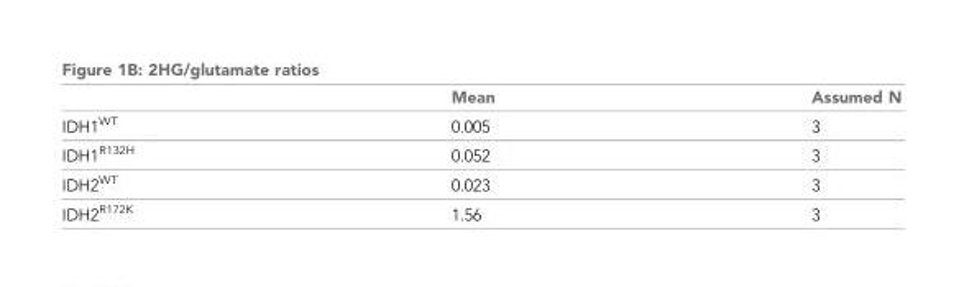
<table><thead><tr><td colspan="3">Figure 1B: 2HG/glutamate ratios</td></tr><tr><td></td><td>Mean</td><td>Assumed N</td></tr></thead><tbody><tr><td>IDH1<sup>WT</sup></td><td>0.005</td><td>3</td></tr><tr><td>IDH1<sup>R132H</sup></td><td>0.052</td><td>3</td></tr><tr><td>IDH2<sup>WT</sup></td><td>0.023</td><td>3</td></tr><tr><td>IDH2<sup>R172K</sup></td><td>1.56</td><td>3</td></tr></tbody></table>